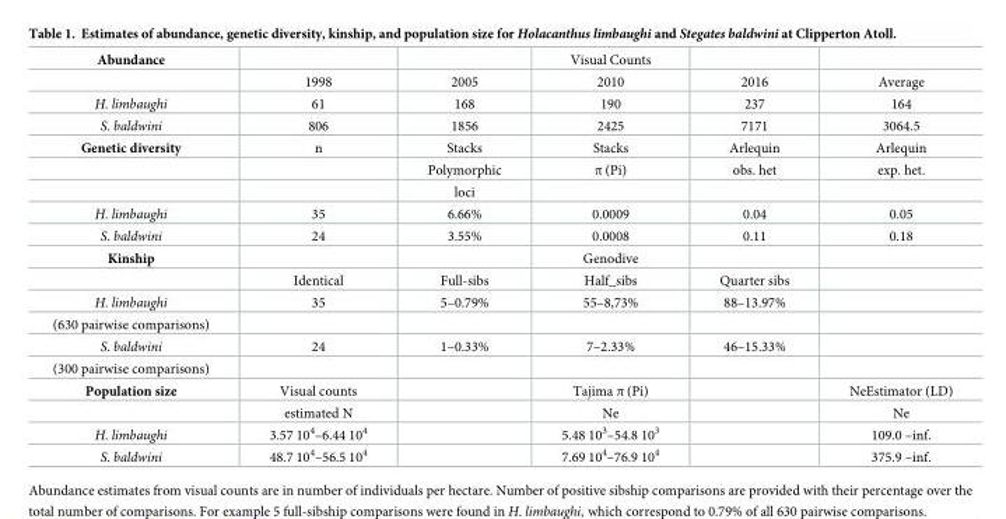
<table><tbody><tr><td rowspan="2">Abundance</td><td></td><td></td><td>Visual Counts</td><td></td><td></td></tr><tr><td>1998</td><td>2005</td><td>2010</td><td>2016</td><td>Average</td></tr><tr><td>H. limbaughi</td><td>61</td><td>168</td><td>190</td><td>237</td><td>164</td></tr><tr><td>S. baldwini</td><td>806</td><td>1856</td><td>2425</td><td>7171</td><td>3064.5</td></tr><tr><td rowspan="3">Genetic diversity</td><td>n</td><td>Stacks</td><td>Stacks</td><td>Arlequin</td><td>Arlequin</td></tr><tr><td></td><td>Polymorphic</td><td>π (Pi)</td><td>obs. het</td><td>exp. het.</td></tr><tr><td></td><td>loci</td><td></td><td></td><td></td></tr><tr><td>H. limbaughi</td><td>35</td><td>6.66%</td><td>0.0009</td><td>0.04</td><td>0.05</td></tr><tr><td>S. baldwini</td><td>24</td><td>3.55%</td><td>0.0008</td><td>0.11</td><td>0.18</td></tr><tr><td rowspan="2">Kinship</td><td></td><td></td><td>Genodive</td><td></td><td></td></tr><tr><td>Identical</td><td>Full-sibs</td><td>Half_sibs</td><td>Quarter sibs</td><td></td></tr><tr><td>H. limbaughi</td><td>35</td><td>5–0.79%</td><td>55–8,73%</td><td>88–13.97%</td><td></td></tr><tr><td colspan="6">(630 pairwise comparisons)</td></tr><tr><td>S. baldwini</td><td>24</td><td>1–0.33%</td><td>7–2.33%</td><td>46–15.33%</td><td></td></tr><tr><td colspan="6">(300 pairwise comparisons)</td></tr><tr><td rowspan="2">Population size</td><td>Visual counts</td><td></td><td>Tajima π (Pi)</td><td></td><td>NeEstimator (LD)</td></tr><tr><td>estimated N</td><td></td><td>Ne</td><td></td><td>Ne</td></tr><tr><td>H. limbaughi</td><td>3.57 10<sup>4</sup>–6.44 10<sup>4</sup></td><td></td><td>5.48 10<sup>3</sup>–54.8 10<sup>3</sup></td><td></td><td>109.0 –inf.</td></tr><tr><td>S. baldwini</td><td>48.7 10<sup>4</sup>–56.5 10<sup>4</sup></td><td></td><td>7.69 10<sup>4</sup>–76.9 10<sup>4</sup></td><td></td><td>375.9 –inf.</td></tr></tbody></table>